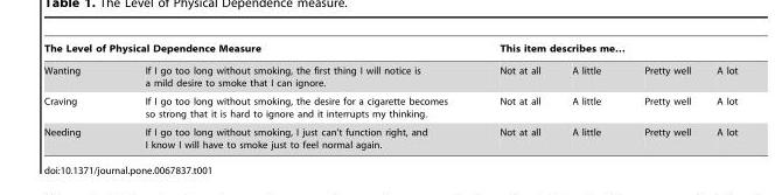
<table><thead><tr><td colspan="2">The Level of Physical Dependence Measure</td><td colspan="4">This item describes me…</td></tr><tr><td>Wanting</td><td>If I go too long without smoking, the first thing I will notice is a mild desire to smoke that I can ignore.</td><td>Not at all</td><td>A little</td><td>Pretty well</td><td>A lot</td></tr></thead><tbody><tr><td>Craving</td><td>If I go too long without smoking, the desire for a cigarette becomes so strong that it is hard to ignore and it interrupts my thinking.</td><td>Not at all</td><td>A little</td><td>Pretty well</td><td>A lot</td></tr><tr><td>Needing</td><td>If I go too long without smoking, I just can’t function right, and I know I will have to smoke just to feel normal again.</td><td>Not at all</td><td>A little</td><td>Pretty well</td><td>A lot</td></tr></tbody></table>